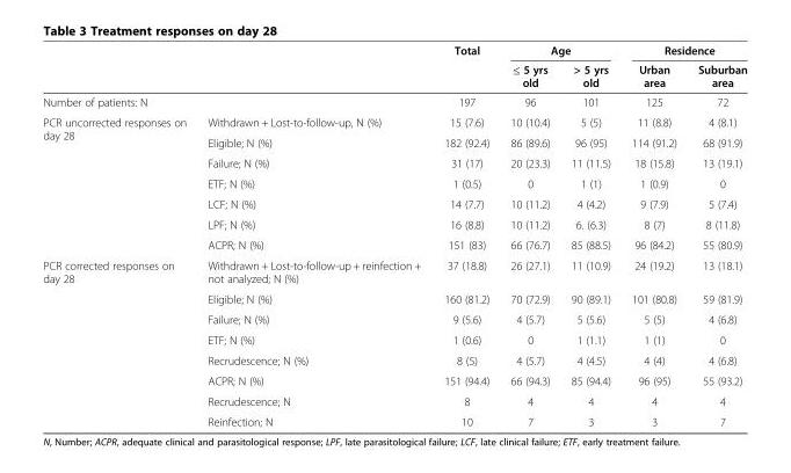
<table><thead><tr><td rowspan="2"></td><td rowspan="2"></td><td rowspan="2">Total</td><td colspan="2">Age</td><td colspan="2">Residence</td></tr><tr><td>≤ 5 yrs old</td><td>&gt; 5 yrs old</td><td>Urban area</td><td>Suburban area</td></tr></thead><tbody><tr><td colspan="2">Number of patients: N</td><td>197</td><td>96</td><td>101</td><td>125</td><td>72</td></tr><tr><td rowspan="7">PCR uncorrected responses on day 28</td><td>Withdrawn + Lost-to-follow-up, N (%)</td><td>15 (7.6)</td><td>10 (10.4)</td><td>5 (5)</td><td>11 (8.8)</td><td>4 (8.1)</td></tr><tr><td>Eligible; N (%)</td><td>182 (92.4)</td><td>86 (89.6)</td><td>96 (95)</td><td>114 (91.2)</td><td>68 (91.9)</td></tr><tr><td>Failure; N (%)</td><td>31 (17)</td><td>20 (23.3)</td><td>11 (11.5)</td><td>18 (15.8)</td><td>13 (19.1)</td></tr><tr><td>ETF; N (%)</td><td>1 (0.5)</td><td>0</td><td>1 (1)</td><td>1 (0.9)</td><td>0</td></tr><tr><td>LCF; N (%)</td><td>14 (7.7)</td><td>10 (11.2)</td><td>4 (4.2)</td><td>9 (7.9)</td><td>5 (7.4)</td></tr><tr><td>LPF; N (%)</td><td>16 (8.8)</td><td>10 (11.2)</td><td>6. (6.3)</td><td>8 (7)</td><td>8 (11.8)</td></tr><tr><td>ACPR; N (%)</td><td>151 (83)</td><td>66 (76.7)</td><td>85 (88.5)</td><td>96 (84.2)</td><td>55 (80.9)</td></tr><tr><td rowspan="8">PCR corrected responses on day 28</td><td>Withdrawn + Lost-to-follow-up + reinfection + not analyzed; N (%)</td><td>37 (18.8)</td><td>26 (27.1)</td><td>11 (10.9)</td><td>24 (19.2)</td><td>13 (18.1)</td></tr><tr><td>Eligible; N (%)</td><td>160 (81.2)</td><td>70 (72.9)</td><td>90 (89.1)</td><td>101 (80.8)</td><td>59 (81.9)</td></tr><tr><td>Failure; N (%)</td><td>9 (5.6)</td><td>4 (5.7)</td><td>5 (5.6)</td><td>5 (5)</td><td>4 (6.8)</td></tr><tr><td>ETF; N (%)</td><td>1 (0.6)</td><td>0</td><td>1 (1.1)</td><td>1 (1)</td><td>0</td></tr><tr><td>Recrudescence; N (%)</td><td>8 (5)</td><td>4 (5.7)</td><td>4 (4.5)</td><td>4 (4)</td><td>4 (6.8)</td></tr><tr><td>ACPR; N (%)</td><td>151 (94.4)</td><td>66 (94.3)</td><td>85 (94.4)</td><td>96 (95)</td><td>55 (93.2)</td></tr><tr><td>Recrudescence; N</td><td>8</td><td>4</td><td>4</td><td>4</td><td>4</td></tr><tr><td>Reinfection; N</td><td>10</td><td>7</td><td>3</td><td>3</td><td>7</td></tr></tbody></table>